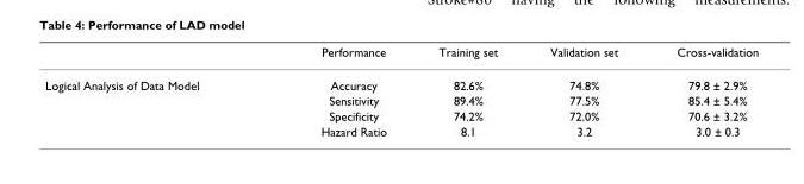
<table><thead><tr><td></td><td>Performance</td><td>Training set</td><td>Validation set</td><td>Cross-validation</td></tr></thead><tbody><tr><td rowspan="4">Logical Analysis of Data Model</td><td>Accuracy</td><td>82.6%</td><td>74.8%</td><td>79.8 ± 2.9%</td></tr><tr><td>Sensitivity</td><td>89.4%</td><td>77.5%</td><td>85.4 ± 5.4%</td></tr><tr><td>Specificity</td><td>74.2%</td><td>72.0%</td><td>70.6 ± 3.2%</td></tr><tr><td>Hazard Ratio</td><td>8.1</td><td>3.2</td><td>3.0 ± 0.3</td></tr></tbody></table>